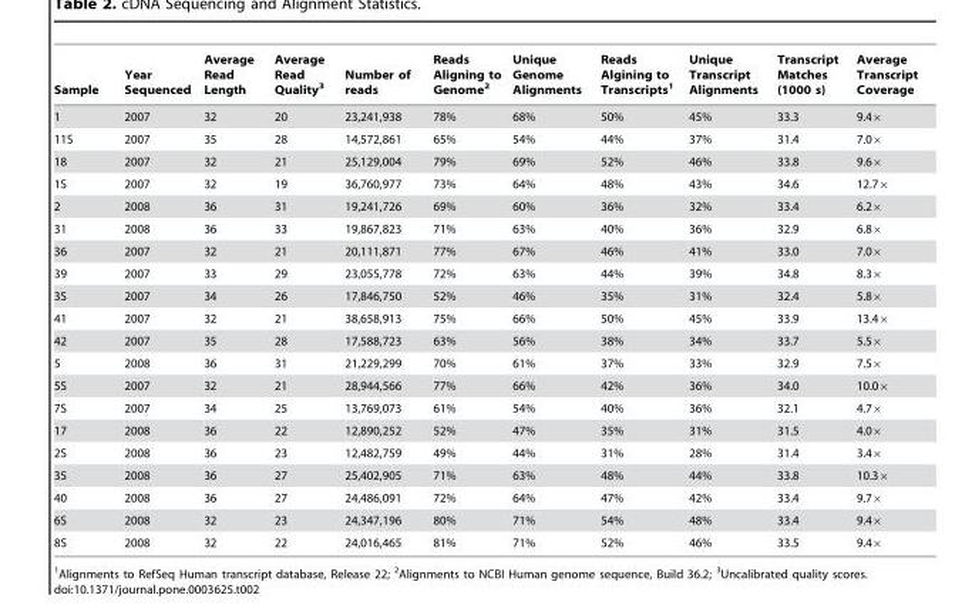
<table><thead><tr><td>Sample</td><td>Year Sequenced</td><td>Average Read Length</td><td>Average Read Quality<sup>3</sup></td><td>Number of reads</td><td>Reads Aligning to Genome<sup>2</sup></td><td>Unique Genome Alignments</td><td>Reads Algining to Transcripts<sup>1</sup></td><td>Unique Transcript Alignments</td><td>Transcript Matches (1000 s)</td><td>Average Transcript Coverage</td></tr></thead><tbody><tr><td>1</td><td>2007</td><td>32</td><td>20</td><td>23,241,938</td><td>78%</td><td>68%</td><td>50%</td><td>45%</td><td>33.3</td><td>9.4×</td></tr><tr><td>11S</td><td>2007</td><td>35</td><td>28</td><td>14,572,861</td><td>65%</td><td>54%</td><td>44%</td><td>37%</td><td>31.4</td><td>7.0×</td></tr><tr><td>18</td><td>2007</td><td>32</td><td>21</td><td>25,129,004</td><td>79%</td><td>69%</td><td>52%</td><td>46%</td><td>33.8</td><td>9.6×</td></tr><tr><td>1S</td><td>2007</td><td>32</td><td>19</td><td>36,760,977</td><td>73%</td><td>64%</td><td>48%</td><td>43%</td><td>34.6</td><td>12.7×</td></tr><tr><td>2</td><td>2008</td><td>36</td><td>31</td><td>19,241,726</td><td>69%</td><td>60%</td><td>36%</td><td>32%</td><td>33.4</td><td>6.2×</td></tr><tr><td>31</td><td>2008</td><td>36</td><td>33</td><td>19,867,823</td><td>71%</td><td>63%</td><td>40%</td><td>36%</td><td>32.9</td><td>6.8×</td></tr><tr><td>36</td><td>2007</td><td>32</td><td>21</td><td>20,111,871</td><td>77%</td><td>67%</td><td>46%</td><td>41%</td><td>33.0</td><td>7.0×</td></tr><tr><td>39</td><td>2007</td><td>33</td><td>29</td><td>23,055,778</td><td>72%</td><td>63%</td><td>44%</td><td>39%</td><td>34.8</td><td>8.3×</td></tr><tr><td>3S</td><td>2007</td><td>34</td><td>26</td><td>17,846,750</td><td>52%</td><td>46%</td><td>35%</td><td>31%</td><td>32.4</td><td>5.8×</td></tr><tr><td>41</td><td>2007</td><td>32</td><td>21</td><td>38,658,913</td><td>75%</td><td>66%</td><td>50%</td><td>45%</td><td>33.9</td><td>13.4×</td></tr><tr><td>42</td><td>2007</td><td>35</td><td>28</td><td>17,588,723</td><td>63%</td><td>56%</td><td>38%</td><td>34%</td><td>33.7</td><td>5.5×</td></tr><tr><td>5</td><td>2008</td><td>36</td><td>31</td><td>21,229,299</td><td>70%</td><td>61%</td><td>37%</td><td>33%</td><td>32.9</td><td>7.5×</td></tr><tr><td>5S</td><td>2007</td><td>32</td><td>21</td><td>28,944,566</td><td>77%</td><td>66%</td><td>42%</td><td>36%</td><td>34.0</td><td>10.0×</td></tr><tr><td>7S</td><td>2007</td><td>34</td><td>25</td><td>13,769,073</td><td>61%</td><td>54%</td><td>40%</td><td>36%</td><td>32.1</td><td>4.7×</td></tr><tr><td>17</td><td>2008</td><td>36</td><td>22</td><td>12,890,252</td><td>52%</td><td>47%</td><td>35%</td><td>31%</td><td>31.5</td><td>4.0×</td></tr><tr><td>2S</td><td>2008</td><td>36</td><td>23</td><td>12,482,759</td><td>49%</td><td>44%</td><td>31%</td><td>28%</td><td>31.4</td><td>3.4×</td></tr><tr><td>35</td><td>2008</td><td>36</td><td>27</td><td>25,402,905</td><td>71%</td><td>63%</td><td>48%</td><td>44%</td><td>33.8</td><td>10.3×</td></tr><tr><td>40</td><td>2008</td><td>36</td><td>27</td><td>24,486,091</td><td>72%</td><td>64%</td><td>47%</td><td>42%</td><td>33.4</td><td>9.7×</td></tr><tr><td>6S</td><td>2008</td><td>32</td><td>23</td><td>24,347,196</td><td>80%</td><td>71%</td><td>54%</td><td>48%</td><td>33.4</td><td>9.4×</td></tr><tr><td>8S</td><td>2008</td><td>32</td><td>22</td><td>24,016,465</td><td>81%</td><td>71%</td><td>52%</td><td>46%</td><td>33.5</td><td>9.4×</td></tr></tbody></table>